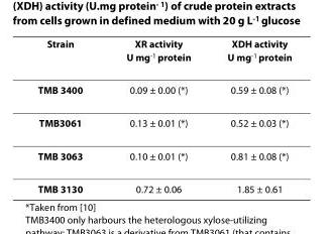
<table><thead><tr><td>Strain</td><td>XR activity U mg<sup>-1</sup> protein</td><td>XDH activity U mg<sup>-1</sup> protein</td></tr></thead><tbody><tr><td>TMB 3400</td><td>0.09 ± 0.00 (*)</td><td>0.59 ± 0.08 (*)</td></tr><tr><td>TMB3061</td><td>0.13 ± 0.01 (*)</td><td>0.52 ± 0.03 (*)</td></tr><tr><td>TMB 3063</td><td>0.10 ± 0.01 (*)</td><td>0.81 ± 0.08 (*)</td></tr><tr><td>TMB 3130</td><td>0.72 ± 0.06</td><td>1.85 ± 0.61</td></tr></tbody></table>